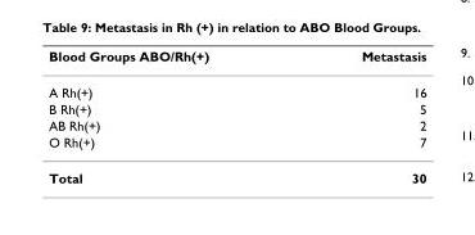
<table><thead><tr><td>Blood Groups ABO/Rh(+)</td><td>Metastasis</td></tr></thead><tbody><tr><td>A Rh(+)</td><td>16</td></tr><tr><td>B Rh(+)</td><td>5</td></tr><tr><td>AB Rh(+)</td><td>2</td></tr><tr><td>O Rh(+)</td><td>7</td></tr><tr><td>Total</td><td>30</td></tr></tbody></table>